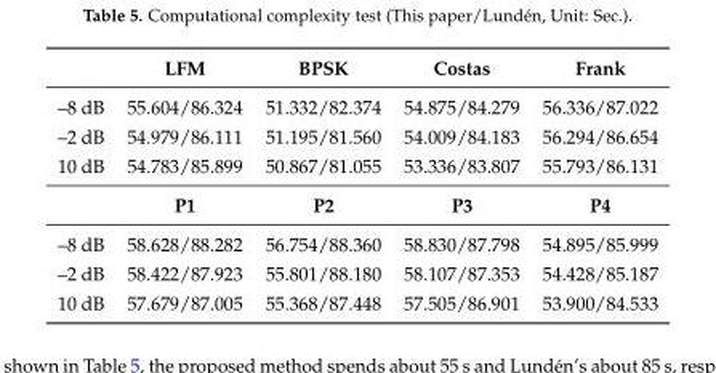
<table><thead><tr><td></td><td>LFM</td><td>BPSK</td><td>Costas</td><td>Frank</td></tr></thead><tbody><tr><td>–8 dB</td><td>55.604/86.324</td><td>51.332/82.374</td><td>54.875/84.279</td><td>56.336/87.022</td></tr><tr><td>–2 dB</td><td>54.979/86.111</td><td>51.195/81.560</td><td>54.009/84.183</td><td>56.294/86.654</td></tr><tr><td rowspan="2">10 dB</td><td>54.783/85.899</td><td>50.867/81.055</td><td>53.336/83.807</td><td>55.793/86.131</td></tr><tr><td>P1</td><td>P2</td><td>P3</td><td>P4</td></tr><tr><td>–8 dB</td><td>58.628/88.282</td><td>56.754/88.360</td><td>58.830/87.798</td><td>54.895/85.999</td></tr><tr><td>–2 dB</td><td>58.422/87.923</td><td>55.801/88.180</td><td>58.107/87.353</td><td>54.428/85.187</td></tr><tr><td>10 dB</td><td>57.679/87.005</td><td>55.368/87.448</td><td>57.505/86.901</td><td>53.900/84.533</td></tr></tbody></table>